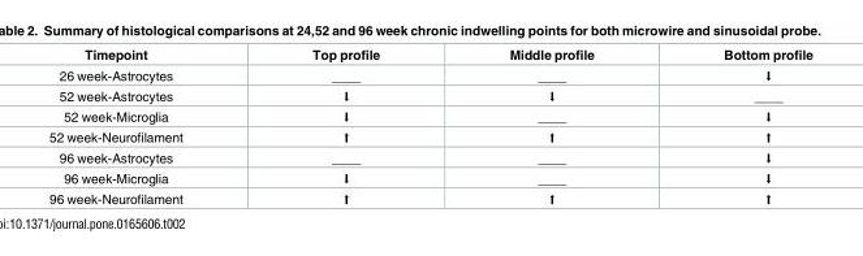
<table><thead><tr><td>Timepoint</td><td>Top profile</td><td>Middle profile</td><td>Bottom profile</td></tr></thead><tbody><tr><td>26 week-Astrocytes</td><td>____</td><td>____</td><td>⬇</td></tr><tr><td>52 week-Astrocytes</td><td>⬇</td><td>⬇</td><td>____</td></tr><tr><td>52 week-Microglia</td><td>⬇</td><td>____</td><td>⬇</td></tr><tr><td>52 week-Neurofilament</td><td>⬆</td><td>⬆</td><td>⬆</td></tr><tr><td>96 week-Astrocytes</td><td>____</td><td>____</td><td>⬇</td></tr><tr><td>96 week-Microglia</td><td>⬇</td><td>____</td><td>⬇</td></tr><tr><td>96 week-Neurofilament</td><td>⬆</td><td>⬆</td><td>⬆</td></tr></tbody></table>